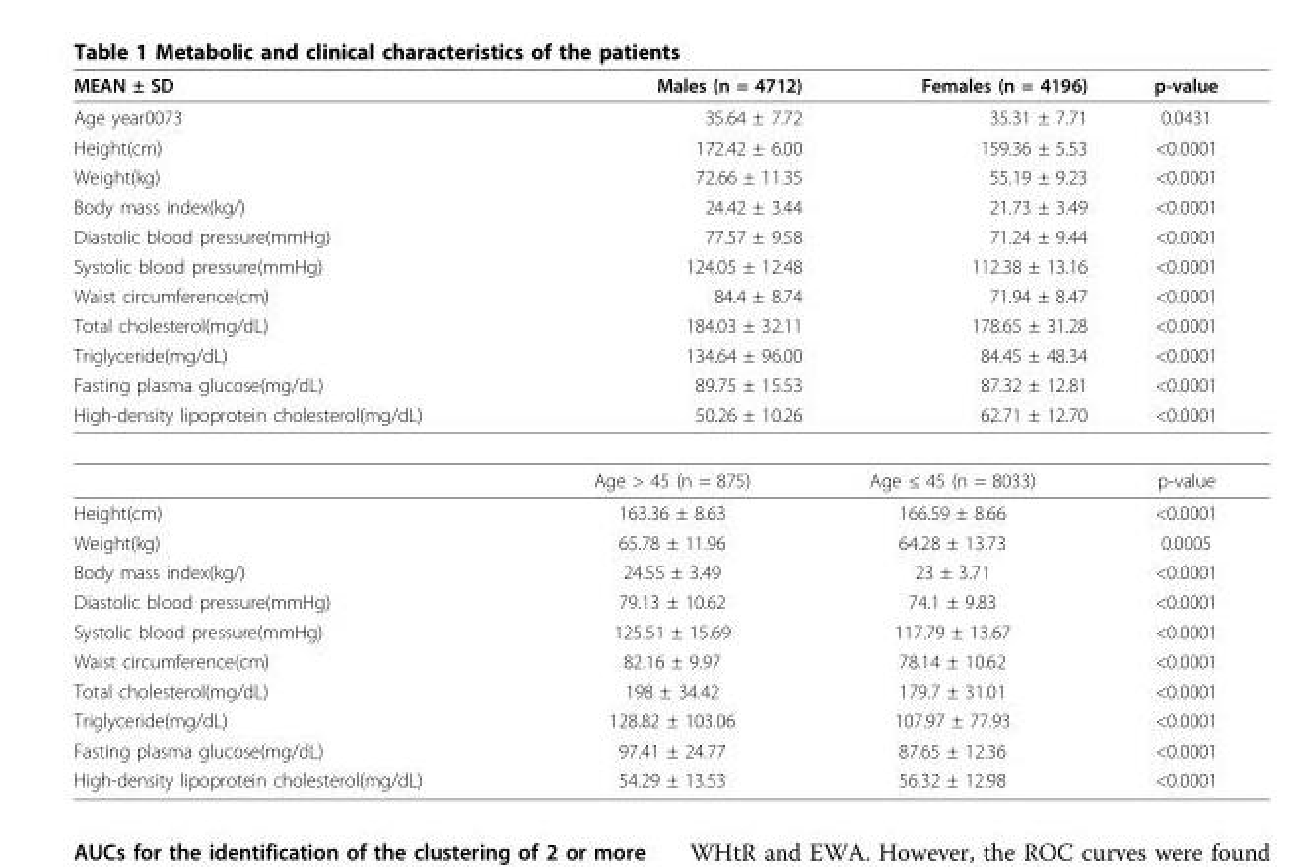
<table><thead><tr><td>MEAN ± SD</td><td>Males (n = 4712)</td><td>Females (n = 4196)</td><td>p-value</td></tr></thead><tbody><tr><td>Age year0073</td><td>35.64 ± 7.72</td><td>35.31 ± 7.71</td><td>0.0431</td></tr><tr><td>Height(cm)</td><td>172.42 ± 6.00</td><td>159.36 ± 5.53</td><td>&lt;0.0001</td></tr><tr><td>Weight(kg)</td><td>72.66 ± 11.35</td><td>55.19 ± 9.23</td><td>&lt;0.0001</td></tr><tr><td>Body mass index(kg/)</td><td>24.42 ± 3.44</td><td>21.73 ± 3.49</td><td>&lt;0.0001</td></tr><tr><td>Diastolic blood pressure(mmHg)</td><td>77.57 ± 9.58</td><td>71.24 ± 9.44</td><td>&lt;0.0001</td></tr><tr><td>Systolic blood pressure(mmHg)</td><td>124.05 ± 12.48</td><td>112.38 ± 13.16</td><td>&lt;0.0001</td></tr><tr><td>Waist circumference(cm)</td><td>84.4 ± 8.74</td><td>71.94 ± 8.47</td><td>&lt;0.0001</td></tr><tr><td>Total cholesterol(mg/dL)</td><td>184.03 ± 32.11</td><td>178.65 ± 31.28</td><td>&lt;0.0001</td></tr><tr><td>Triglyceride(mg/dL)</td><td>134.64 ± 96.00</td><td>84.45 ± 48.34</td><td>&lt;0.0001</td></tr><tr><td>Fasting plasma glucose(mg/dL)</td><td>89.75 ± 15.53</td><td>87.32 ± 12.81</td><td>&lt;0.0001</td></tr><tr><td rowspan="2">High-density lipoprotein cholesterol(mg/dL)</td><td>50.26 ± 10.26</td><td>62.71 ± 12.70</td><td>&lt;0.0001</td></tr><tr><td>Age &gt; 45 (n = 875)</td><td>Age ≤ 45 (n = 8033)</td><td>p-value</td></tr><tr><td>Height(cm)</td><td>163.36 ± 8.63</td><td>166.59 ± 8.66</td><td>&lt;0.0001</td></tr><tr><td>Weight(kg)</td><td>65.78 ± 11.96</td><td>64.28 ± 13.73</td><td>0.0005</td></tr><tr><td>Body mass index(kg/)</td><td>24.55 ± 3.49</td><td>23 ± 3.71</td><td>&lt;0.0001</td></tr><tr><td>Diastolic blood pressure(mmHg)</td><td>79.13 ± 10.62</td><td>74.1 ± 9.83</td><td>&lt;0.0001</td></tr><tr><td>Systolic blood pressure(mmHg)</td><td>125.51 ± 15.69</td><td>117.79 ± 13.67</td><td>&lt;0.0001</td></tr><tr><td>Waist circumference(cm)</td><td>82.16 ± 9.97</td><td>78.14 ± 10.62</td><td>&lt;0.0001</td></tr><tr><td>Total cholesterol(mg/dL)</td><td>198 ± 34.42</td><td>179.7 ± 31.01</td><td>&lt;0.0001</td></tr><tr><td>Triglyceride(mg/dL)</td><td>128.82 ± 103.06</td><td>107.97 ± 77.93</td><td>&lt;0.0001</td></tr><tr><td>Fasting plasma glucose(mg/dL)</td><td>97.41 ± 24.77</td><td>87.65 ± 12.36</td><td>&lt;0.0001</td></tr><tr><td>High-density lipoprotein cholesterol(mg/dL)</td><td>54.29 ± 13.53</td><td>56.32 ± 12.98</td><td>&lt;0.0001</td></tr></tbody></table>